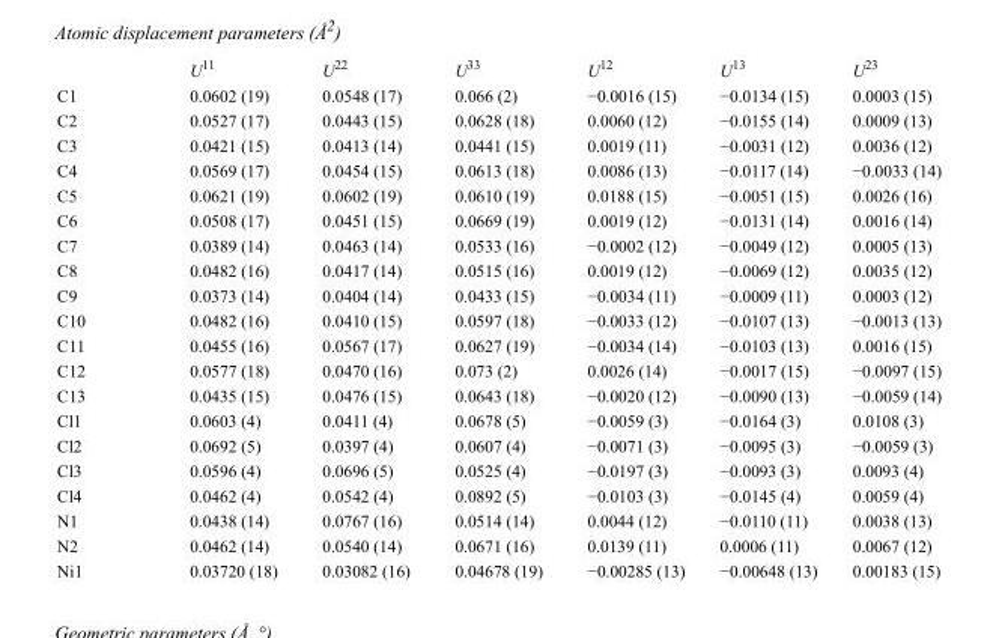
<table><thead><tr><td></td><td>U<sup>11</sup></td><td>U<sup>22</sup></td><td>U<sup>33</sup></td><td>U<sup>12</sup></td><td>U<sup>13</sup></td><td>U<sup>23</sup></td></tr></thead><tbody><tr><td>C1</td><td>0.0602 (19)</td><td>0.0548 (17)</td><td>0.066 (2)</td><td>−0.0016 (15)</td><td>−0.0134 (15)</td><td>0.0003 (15)</td></tr><tr><td>C2</td><td>0.0527 (17)</td><td>0.0443 (15)</td><td>0.0628 (18)</td><td>0.0060 (12)</td><td>−0.0155 (14)</td><td>0.0009 (13)</td></tr><tr><td>C3</td><td>0.0421 (15)</td><td>0.0413 (14)</td><td>0.0441 (15)</td><td>0.0019 (11)</td><td>−0.0031 (12)</td><td>0.0036 (12)</td></tr><tr><td>C4</td><td>0.0569 (17)</td><td>0.0454 (15)</td><td>0.0613 (18)</td><td>0.0086 (13)</td><td>−0.0117 (14)</td><td>−0.0033 (14)</td></tr><tr><td>C5</td><td>0.0621 (19)</td><td>0.0602 (19)</td><td>0.0610 (19)</td><td>0.0188 (15)</td><td>−0.0051 (15)</td><td>0.0026 (16)</td></tr><tr><td>C6</td><td>0.0508 (17)</td><td>0.0451 (15)</td><td>0.0669 (19)</td><td>0.0019 (12)</td><td>−0.0131 (14)</td><td>0.0016 (14)</td></tr><tr><td>C7</td><td>0.0389 (14)</td><td>0.0463 (14)</td><td>0.0533 (16)</td><td>−0.0002 (12)</td><td>−0.0049 (12)</td><td>0.0005 (13)</td></tr><tr><td>C8</td><td>0.0482 (16)</td><td>0.0417 (14)</td><td>0.0515 (16)</td><td>0.0019 (12)</td><td>−0.0069 (12)</td><td>0.0035 (12)</td></tr><tr><td>C9</td><td>0.0373 (14)</td><td>0.0404 (14)</td><td>0.0433 (15)</td><td>−0.0034 (11)</td><td>−0.0009 (11)</td><td>0.0003 (12)</td></tr><tr><td>C10</td><td>0.0482 (16)</td><td>0.0410 (15)</td><td>0.0597 (18)</td><td>−0.0033 (12)</td><td>−0.0107 (13)</td><td>−0.0013 (13)</td></tr><tr><td>C11</td><td>0.0455 (16)</td><td>0.0567 (17)</td><td>0.0627 (19)</td><td>−0.0034 (14)</td><td>−0.0103 (13)</td><td>0.0016 (15)</td></tr><tr><td>C12</td><td>0.0577 (18)</td><td>0.0470 (16)</td><td>0.073 (2)</td><td>0.0026 (14)</td><td>−0.0017 (15)</td><td>−0.0097 (15)</td></tr><tr><td>C13</td><td>0.0435 (15)</td><td>0.0476 (15)</td><td>0.0643 (18)</td><td>−0.0020 (12)</td><td>−0.0090 (13)</td><td>−0.0059 (14)</td></tr><tr><td>Cl1</td><td>0.0603 (4)</td><td>0.0411 (4)</td><td>0.0678 (5)</td><td>−0.0059 (3)</td><td>−0.0164 (3)</td><td>0.0108 (3)</td></tr><tr><td>Cl2</td><td>0.0692 (5)</td><td>0.0397 (4)</td><td>0.0607 (4)</td><td>−0.0071 (3)</td><td>−0.0095 (3)</td><td>−0.0059 (3)</td></tr><tr><td>Cl3</td><td>0.0596 (4)</td><td>0.0696 (5)</td><td>0.0525 (4)</td><td>−0.0197 (3)</td><td>−0.0093 (3)</td><td>0.0093 (4)</td></tr><tr><td>Cl4</td><td>0.0462 (4)</td><td>0.0542 (4)</td><td>0.0892 (5)</td><td>−0.0103 (3)</td><td>−0.0145 (4)</td><td>0.0059 (4)</td></tr><tr><td>N1</td><td>0.0438 (14)</td><td>0.0767 (16)</td><td>0.0514 (14)</td><td>0.0044 (12)</td><td>−0.0110 (11)</td><td>0.0038 (13)</td></tr><tr><td>N2</td><td>0.0462 (14)</td><td>0.0540 (14)</td><td>0.0671 (16)</td><td>0.0139 (11)</td><td>0.0006 (11)</td><td>0.0067 (12)</td></tr><tr><td>Ni1</td><td>0.03720 (18)</td><td>0.03082 (16)</td><td>0.04678 (19)</td><td>−0.00285 (13)</td><td>−0.00648 (13)</td><td>0.00183 (15)</td></tr></tbody></table>